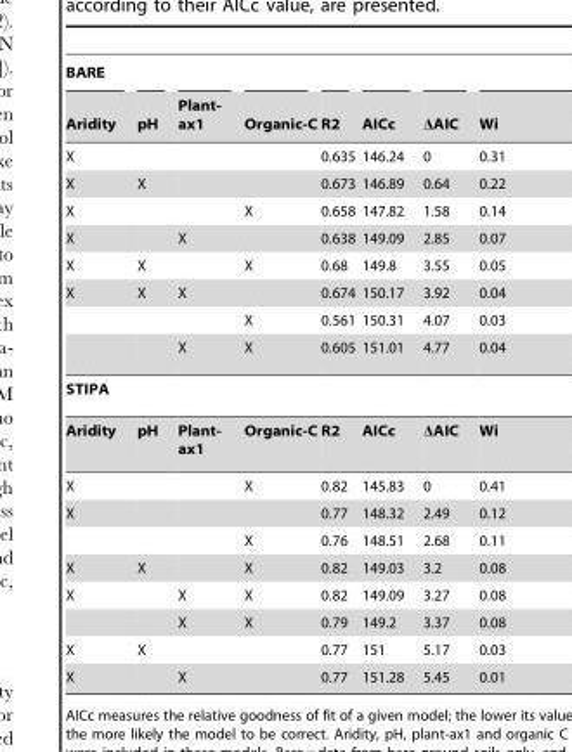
<table><thead><tr><td rowspan="2">BARE Aridity</td><td rowspan="2">pH</td><td rowspan="2">Plant- ax1</td><td rowspan="2">Organic-C</td><td rowspan="2">R2</td><td rowspan="2">AICc</td><td rowspan="2">ΔAIC</td><td rowspan="2">Wi</td></tr><tr></tr></thead><tbody><tr><td>X</td><td></td><td></td><td></td><td>0.635</td><td>146.24</td><td>0</td><td>0.31</td></tr><tr><td>X</td><td>X</td><td></td><td></td><td>0.673</td><td>146.89</td><td>0.64</td><td>0.22</td></tr><tr><td>X</td><td></td><td></td><td>X</td><td>0.658</td><td>147.82</td><td>1.58</td><td>0.14</td></tr><tr><td>X</td><td></td><td>X</td><td></td><td>0.638</td><td>149.09</td><td>2.85</td><td>0.07</td></tr><tr><td>X</td><td>X</td><td></td><td>X</td><td>0.68</td><td>149.8</td><td>3.55</td><td>0.05</td></tr><tr><td rowspan="3">X</td><td>X</td><td>X</td><td></td><td>0.674</td><td>150.17</td><td>3.92</td><td>0.04</td></tr><tr><td></td><td></td><td>X</td><td>0.561</td><td>150.31</td><td>4.07</td><td>0.03</td></tr><tr><td></td><td>X</td><td>X</td><td>0.605</td><td>151.01</td><td>4.77</td><td>0.04</td></tr><tr><td colspan="8">STIPA</td></tr><tr><td>Aridity</td><td>pH</td><td>Plant- ax1</td><td>Organic-C</td><td>R2</td><td>AICc</td><td>ΔAIC</td><td>Wi</td></tr><tr><td>X</td><td></td><td></td><td>X</td><td>0.82</td><td>145.83</td><td>0</td><td>0.41</td></tr><tr><td rowspan="2">X</td><td></td><td></td><td></td><td>0.77</td><td>148.32</td><td>2.49</td><td>0.12</td></tr><tr><td></td><td></td><td>X</td><td>0.76</td><td>148.51</td><td>2.68</td><td>0.11</td></tr><tr><td>X</td><td>X</td><td></td><td>X</td><td>0.82</td><td>149.03</td><td>3.2</td><td>0.08</td></tr><tr><td rowspan="2">X</td><td></td><td>X</td><td>X</td><td>0.82</td><td>149.09</td><td>3.27</td><td>0.08</td></tr><tr><td></td><td>X</td><td>X</td><td>0.79</td><td>149.2</td><td>3.37</td><td>0.08</td></tr><tr><td>X</td><td>X</td><td></td><td></td><td>0.77</td><td>151</td><td>5.17</td><td>0.03</td></tr><tr><td>X</td><td></td><td>X</td><td></td><td>0.77</td><td>151.28</td><td>5.45</td><td>0.01</td></tr></tbody></table>